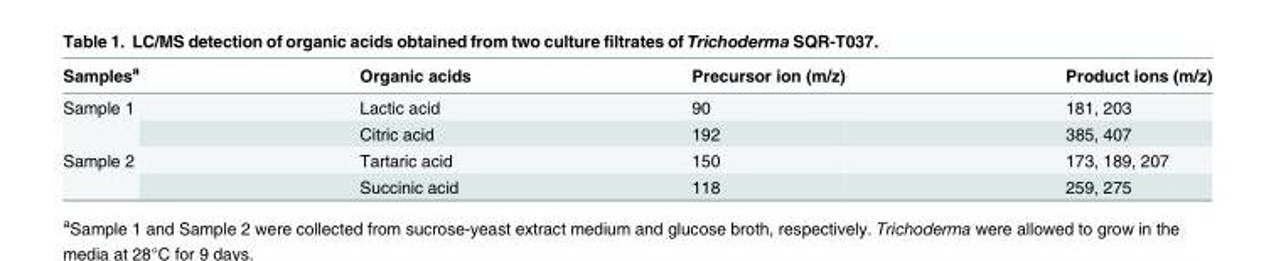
<table><thead><tr><td>Samples<sup>a</sup></td><td>Organic acids</td><td>Precursor ion (m/z)</td><td>Product ions (m/z)</td></tr></thead><tbody><tr><td rowspan="2">Sample 1</td><td>Lactic acid</td><td>90</td><td>181, 203</td></tr><tr><td>Citric acid</td><td>192</td><td>385, 407</td></tr><tr><td rowspan="2">Sample 2</td><td>Tartaric acid</td><td>150</td><td>173, 189, 207</td></tr><tr><td>Succinic acid</td><td>118</td><td>259, 275</td></tr></tbody></table>